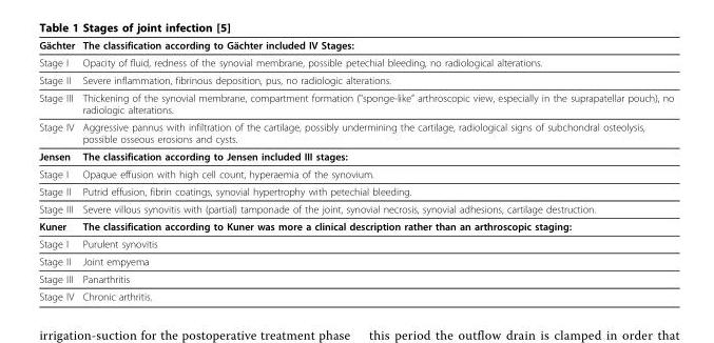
<table><thead><tr><td>Gächter</td><td>The classification according to Gächter included IV Stages:</td></tr></thead><tbody><tr><td>Stage I</td><td>Opacity of fluid, redness of the synovial membrane, possible petechial bleeding, no radiological alterations.</td></tr><tr><td>Stage II</td><td>Severe inflammation, fibrinous deposition, pus, no radiologic alterations.</td></tr><tr><td>Stage III</td><td>Thickening of the synovial membrane, compartment formation (&quot;sponge-like” arthroscopic view, especially in the suprapatellar pouch), no radiologic alterations.</td></tr><tr><td>Stage IV</td><td>Aggressive pannus with infiltration of the cartilage, possibly undermining the cartilage, radiological signs of subchondral osteolysis, possible osseous erosions and cysts.</td></tr><tr><td>Jensen</td><td>The classification according to Jensen included III stages:</td></tr><tr><td>Stage I</td><td>Opaque effusion with high cell count, hyperaemia of the synovium.</td></tr><tr><td>Stage II</td><td>Putrid effusion, fibrin coatings, synovial hypertrophy with petechial bleeding.</td></tr><tr><td>Stage III</td><td>Severe villous synovitis with (partial) tamponade of the joint, synovial necrosis, synovial adhesions, cartilage destruction.</td></tr><tr><td>Kuner</td><td>The classification according to Kuner was more a clinical description rather than an arthroscopic staging:</td></tr><tr><td>Stage I</td><td>Purulent synovitis</td></tr><tr><td>Stage II</td><td>Joint empyema</td></tr><tr><td>Stage III</td><td>Panarthritis</td></tr><tr><td>Stage IV</td><td>Chronic arthritis.</td></tr></tbody></table>